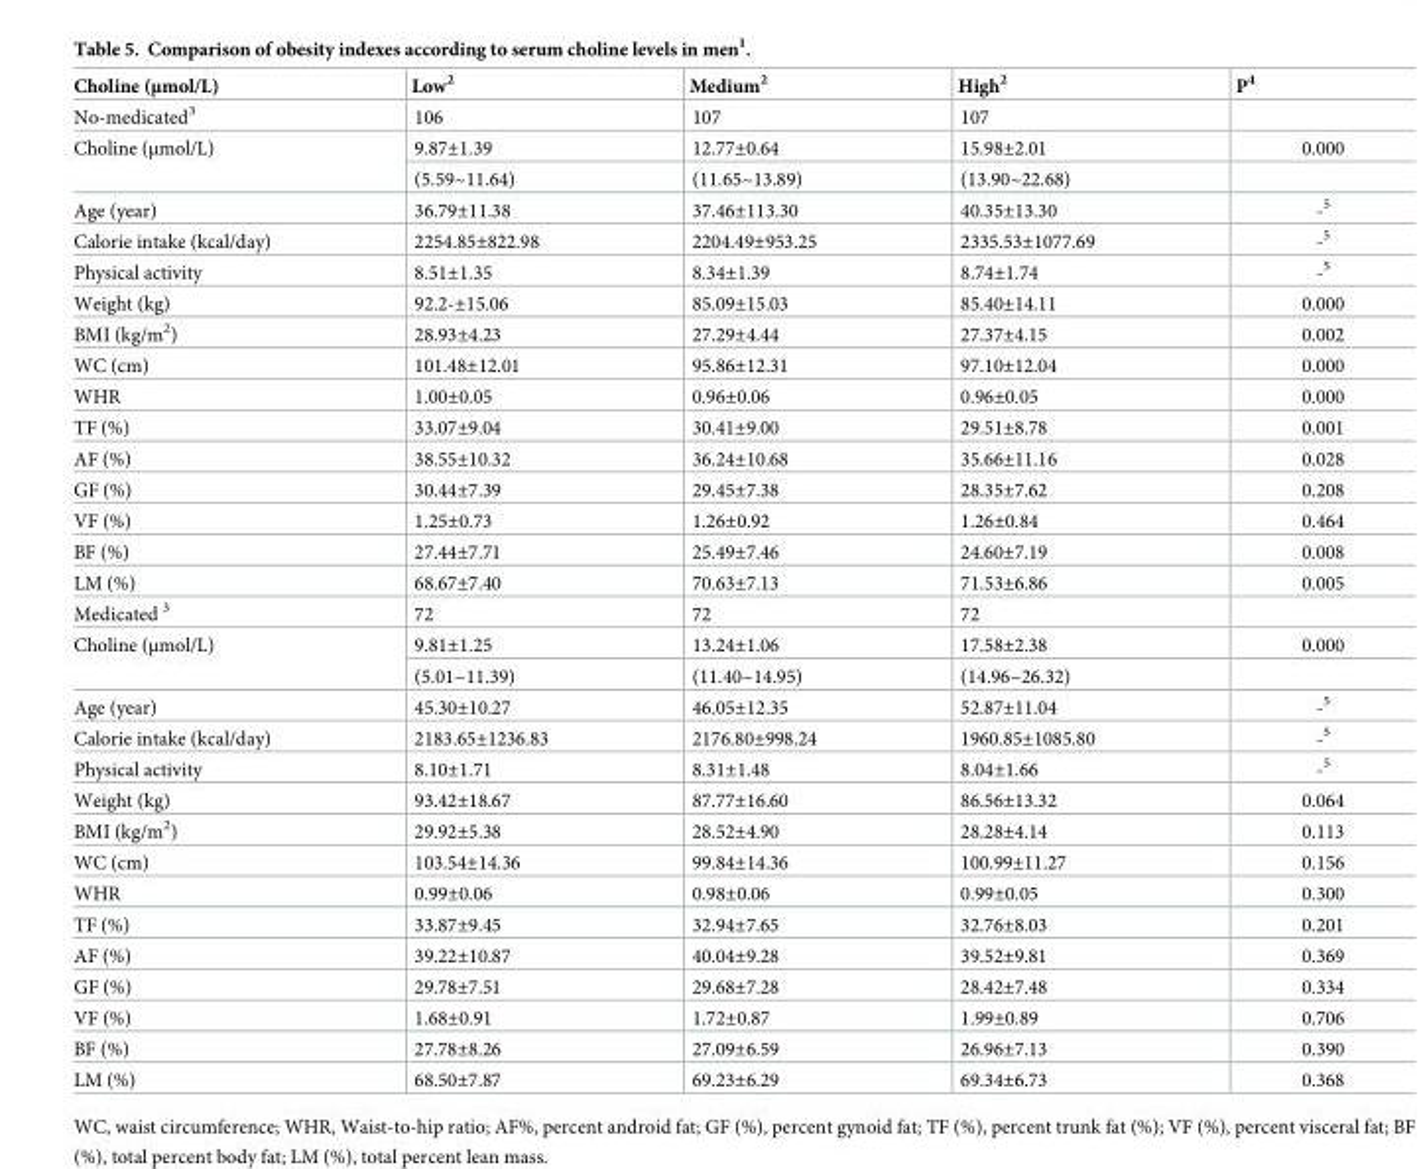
<table><thead><tr><td>Choline (μmol/L)</td><td>Low<sup>2</sup></td><td>Medium<sup>2</sup></td><td>High<sup>2</sup></td><td>P<sup>4</sup></td></tr></thead><tbody><tr><td>No-medicated<sup>3</sup></td><td>106</td><td>107</td><td>107</td><td></td></tr><tr><td rowspan="2">Choline (μmol/L)</td><td>9.87±1.39</td><td>12.77±0.64</td><td>15.98±2.01</td><td>0.000</td></tr><tr><td>(5.59~11.64)</td><td>(11.65~13.89)</td><td>(13.90~22.68)</td><td></td></tr><tr><td>Age (year)</td><td>36.79±11.38</td><td>37.46±113.30</td><td>40.35±13.30</td><td>-<sup>5</sup></td></tr><tr><td>Calorie intake (kcal/day)</td><td>2254.85±822.98</td><td>2204.49±953.25</td><td>2335.53±1077.69</td><td>-<sup>5</sup></td></tr><tr><td>Physical activity</td><td>8.51±1.35</td><td>8.34±1.39</td><td>8.74±1.74</td><td>-<sup>5</sup></td></tr><tr><td>Weight (kg)</td><td>92.2-±15.06</td><td>85.09±15.03</td><td>85.40±14.11</td><td>0.000</td></tr><tr><td>BMI (kg/m<sup>2</sup>)</td><td>28.93±4.23</td><td>27.29±4.44</td><td>27.37±4.15</td><td>0.002</td></tr><tr><td>WC (cm)</td><td>101.48±12.01</td><td>95.86±12.31</td><td>97.10±12.04</td><td>0.000</td></tr><tr><td>WHR</td><td>1.00±0.05</td><td>0.96±0.06</td><td>0.96±0.05</td><td>0.000</td></tr><tr><td>TF (%)</td><td>33.07±9.04</td><td>30.41±9.00</td><td>29.51±8.78</td><td>0.001</td></tr><tr><td>AF (%)</td><td>38.55±10.32</td><td>36.24±10.68</td><td>35.66±11.16</td><td>0.028</td></tr><tr><td>GF (%)</td><td>30.44±7.39</td><td>29.45±7.38</td><td>28.35±7.62</td><td>0.208</td></tr><tr><td>VF (%)</td><td>1.25±0.73</td><td>1.26±0.92</td><td>1.26±0.84</td><td>0.464</td></tr><tr><td>BF (%)</td><td>27.44±7.71</td><td>25.49±7.46</td><td>24.60±7.19</td><td>0.008</td></tr><tr><td>LM (%)</td><td>68.67±7.40</td><td>70.63±7.13</td><td>71.53±6.86</td><td>0.005</td></tr><tr><td>Medicated <sup>3</sup></td><td>72</td><td>72</td><td>72</td><td></td></tr><tr><td rowspan="2">Choline (μmol/L)</td><td>9.81±1.25</td><td>13.24±1.06</td><td>17.58±2.38</td><td>0.000</td></tr><tr><td>(5.01~11.39)</td><td>(11.40~14.95)</td><td>(14.96~26.32)</td><td></td></tr><tr><td>Age (year)</td><td>45.30±10.27</td><td>46.05±12.35</td><td>52.87±11.04</td><td>-<sup>5</sup></td></tr><tr><td>Calorie intake (kcal/day)</td><td>2183.65±1236.83</td><td>2176.80±998.24</td><td>1960.85±1085.80</td><td>-<sup>5</sup></td></tr><tr><td>Physical activity</td><td>8.10±1.71</td><td>8.31±1.48</td><td>8.04±1.66</td><td>-<sup>5</sup></td></tr><tr><td>Weight (kg)</td><td>93.42±18.67</td><td>87.77±16.60</td><td>86.56±13.32</td><td>0.064</td></tr><tr><td>BMI (kg/m<sup>2</sup>)</td><td>29.92±5.38</td><td>28.52±4.90</td><td>28.28±4.14</td><td>0.113</td></tr><tr><td>WC (cm)</td><td>103.54±14.36</td><td>99.84±14.36</td><td>100.99±11.27</td><td>0.156</td></tr><tr><td>WHR</td><td>0.99±0.06</td><td>0.98±0.06</td><td>0.99±0.05</td><td>0.300</td></tr><tr><td>TF (%)</td><td>33.87±9.45</td><td>32.94±7.65</td><td>32.76±8.03</td><td>0.201</td></tr><tr><td>AF (%)</td><td>39.22±10.87</td><td>40.04±9.28</td><td>39.52±9.81</td><td>0.369</td></tr><tr><td>GF (%)</td><td>29.78±7.51</td><td>29.68±7.28</td><td>28.42±7.48</td><td>0.334</td></tr><tr><td>VF (%)</td><td>1.68±0.91</td><td>1.72±0.87</td><td>1.99±0.89</td><td>0.706</td></tr><tr><td>BF (%)</td><td>27.78±8.26</td><td>27.09±6.59</td><td>26.96±7.13</td><td>0.390</td></tr><tr><td>LM (%)</td><td>68.50±7.87</td><td>69.23±6.29</td><td>69.34±6.73</td><td>0.368</td></tr></tbody></table>